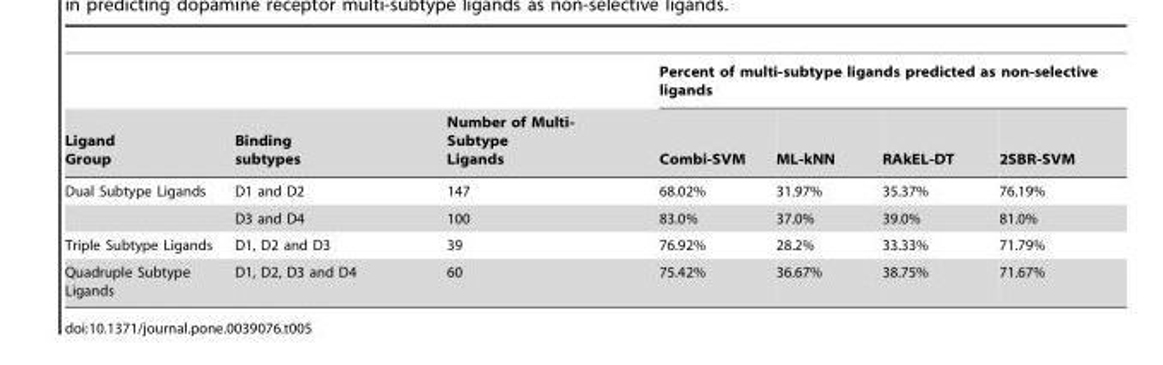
<table><thead><tr><td rowspan="2">Ligand Group</td><td rowspan="2">Binding subtypes</td><td rowspan="2">Number of Multi- Subtype Ligands</td><td colspan="4">Percent of multi-subtype ligands predicted as non-selective ligands</td></tr><tr><td>Combi-SVM</td><td>ML-kNN</td><td>RAkEL-DT</td><td>2SBR-SVM</td></tr></thead><tbody><tr><td rowspan="2">Dual Subtype Ligands</td><td>D1 and D2</td><td>147</td><td>68.02%</td><td>31.97%</td><td>35.37%</td><td>76.19%</td></tr><tr><td>D3 and D4</td><td>100</td><td>83.0%</td><td>37.0%</td><td>39.0%</td><td>81.0%</td></tr><tr><td>Triple Subtype Ligands</td><td>D1, D2 and D3</td><td>39</td><td>76.92%</td><td>28.2%</td><td>33.33%</td><td>71.79%</td></tr><tr><td>Quadruple Subtype Ligands</td><td>D1, D2, D3 and D4</td><td>60</td><td>75.42%</td><td>36.67%</td><td>38.75%</td><td>71.67%</td></tr></tbody></table>